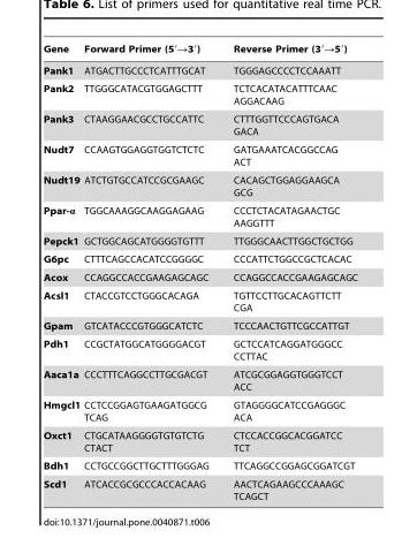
<table><thead><tr><td>Gene</td><td>Forward Primer (5′→3′)</td><td>Reverse Primer (3′→5′)</td></tr></thead><tbody><tr><td>Pank1</td><td>ATGACTTGCCCTCATTTGCAT</td><td>TGGGAGCCCCTCCAAATT</td></tr><tr><td>Pank2</td><td>TTGGGCATACGTGGAGCTTT</td><td>TCTCACATACATTTCAAC AGGACAAG</td></tr><tr><td>Pank3</td><td>CTAAGGAACGCCTGCCATTC</td><td>CTTTGGTTCCCAGTGACA GACA</td></tr><tr><td>Nudt7</td><td>CCAAGTGGAGGTGGTCTCTC</td><td>GATGAAATCACGGCCAG ACT</td></tr><tr><td>Nudt19</td><td>ATCTGTGCCATCCGCGAAGC</td><td>CACAGCTGGAGGAAGCA GCG</td></tr><tr><td>Ppar-α</td><td>TGGCAAAGGCAAGGAGAAG</td><td>CCCTCTACATAGAACTGC AAGGTTT</td></tr><tr><td>Pepck1</td><td>GCTGGCAGCATGGGGTGTTT</td><td>TTGGGCAACTTGGCTGCTGG</td></tr><tr><td>G6pc</td><td>CTTTCAGCCACATCCGGGGC</td><td>CCCATTCTGGCCGCTCACAC</td></tr><tr><td>Acox</td><td>CCAGGCCACCGAAGAGCAGC</td><td>CCAGGCCACCGAAGAGCAGC</td></tr><tr><td>Acsl1</td><td>CTACCGTCCTGGGCACAGA</td><td>TGTTCCTTGCACAGTTCTT CGA</td></tr><tr><td>Gpam</td><td>GTCATACCCGTGGGCATCTC</td><td>TCCCAACTGTTCGCCATTGT</td></tr><tr><td>Pdh1</td><td>CCGCTATGGCATGGGGACGT</td><td>GCTCCATCAGGATGGGCC CCTTAC</td></tr><tr><td>Aaca1a</td><td>CCCTTTCAGGCCTTGCGACGT</td><td>ATCGCGGAGGTGGGTCCT ACC</td></tr><tr><td>Hmgcl1</td><td>CCTCCGGAGTGAAGATGGCG TCAG</td><td>GTAGGGGCATCCGAGGGC ACA</td></tr><tr><td>Oxct1</td><td>CTGCATAAGGGGTGTGTCTG CTACT</td><td>CTCCACCGGCACGGATCC TCT</td></tr><tr><td>Bdh1</td><td>CCTGCCGGCTTGCTTTGGGAG</td><td>TTCAGGCCGGAGCGGATCGT</td></tr><tr><td>Scd1</td><td>ATCACCGCGCCCACCACAAG</td><td>AACTCAGAAGCCCAAAGC TCAGCT</td></tr></tbody></table>